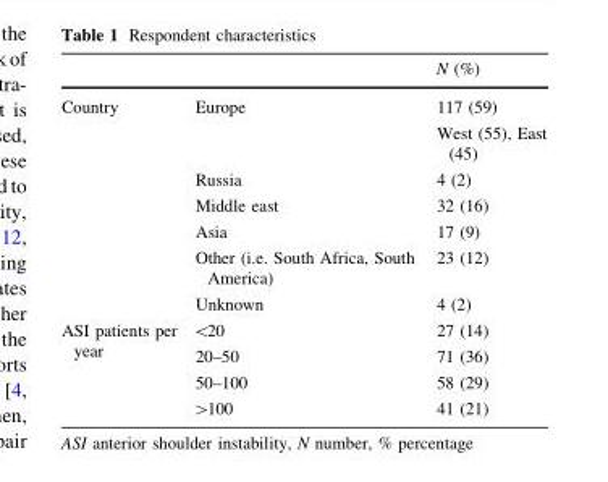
<table><thead><tr><td></td><td></td><td>N (%)</td></tr></thead><tbody><tr><td rowspan="6">Country</td><td>Europe</td><td>117 (59) West (55), East (45)</td></tr><tr><td>Russia</td><td>4 (2)</td></tr><tr><td>Middle east</td><td>32 (16)</td></tr><tr><td>Asia</td><td>17 (9)</td></tr><tr><td>Other (i.e. South Africa, South America)</td><td>23 (12)</td></tr><tr><td>Unknown</td><td>4 (2)</td></tr><tr><td rowspan="4">ASI patients per year</td><td>&lt;20</td><td>27 (14)</td></tr><tr><td>20–50</td><td>71 (36)</td></tr><tr><td>50–100</td><td>58 (29)</td></tr><tr><td>&gt;100</td><td>41 (21)</td></tr></tbody></table>